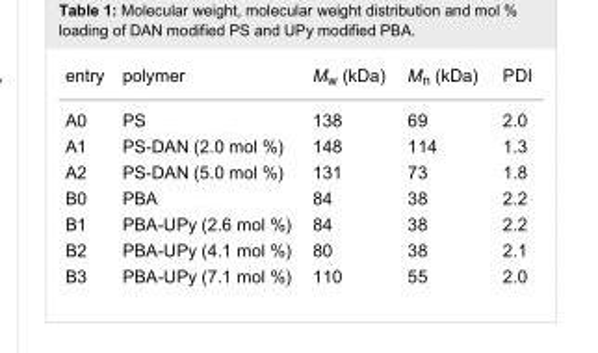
<table><tbody><tr><td>entry</td><td>polymer</td><td>M<sub>w</sub> (kDa)</td><td>M<sub>n</sub> (kDa)</td><td>PDI</td></tr><tr><td>A0</td><td>PS</td><td>138</td><td>69</td><td>2.0</td></tr><tr><td>A1</td><td>PS-DAN (2.0 mol %)</td><td>148</td><td>114</td><td>1.3</td></tr><tr><td>A2</td><td>PS-DAN (5.0 mol %)</td><td>131</td><td>73</td><td>1.8</td></tr><tr><td>B0</td><td>PBA</td><td>84</td><td>38</td><td>2.2</td></tr><tr><td>B1</td><td>PBA-UPy (2.6 mol %)</td><td>84</td><td>38</td><td>2.2</td></tr><tr><td>B2</td><td>PBA-UPy (4.1 mol %)</td><td>80</td><td>38</td><td>2.1</td></tr><tr><td>B3</td><td>PBA-UPy (7.1 mol %)</td><td>110</td><td>55</td><td>2.0</td></tr></tbody></table>